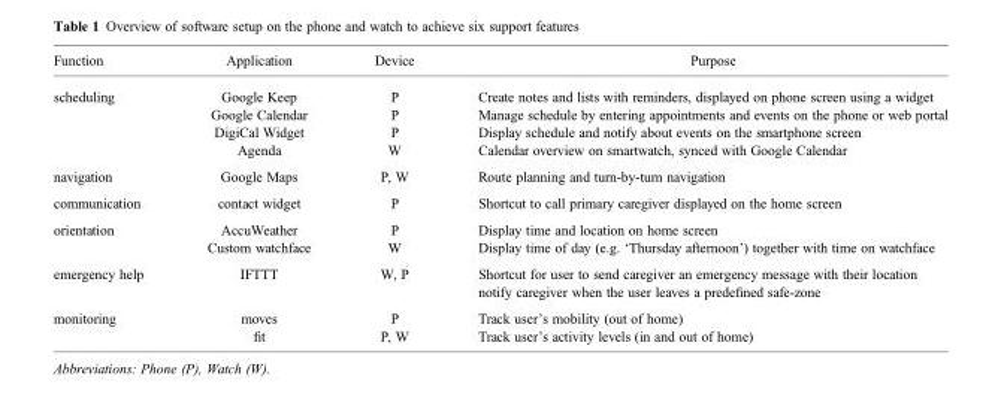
<table><thead><tr><td>Function</td><td>Application</td><td>Device</td><td>Purpose</td></tr></thead><tbody><tr><td rowspan="4">scheduling</td><td>Google Keep</td><td>P</td><td>Create notes and lists with reminders, displayed on phone screen using a widget</td></tr><tr><td>Google Calendar</td><td>P</td><td>Manage schedule by entering appointments and events on the phone or web portal</td></tr><tr><td>DigiCal Widget</td><td>P</td><td>Display schedule and notify about events on the smartphone screen</td></tr><tr><td>Agenda</td><td>W</td><td>Calendar overview on smartwatch, synced with Google Calendar</td></tr><tr><td>navigation</td><td>Google Maps</td><td>P, W</td><td>Route planning and turn-by-turn navigation</td></tr><tr><td>communication</td><td>contact widget</td><td>P</td><td>Shortcut to call primary caregiver displayed on the home screen</td></tr><tr><td rowspan="2">orientation</td><td>AccuWeather</td><td>P</td><td>Display time and location on home screen</td></tr><tr><td>Custom watchface</td><td>W</td><td>Display time of day (e.g. ‘Thursday afternoon’) together with time on watchface</td></tr><tr><td rowspan="2">emergency help</td><td rowspan="2">IFTTT</td><td rowspan="2">W, P</td><td>Shortcut for user to send caregiver an emergency message with their location</td></tr><tr><td>notify caregiver when the user leaves a predefined safe-zone</td></tr><tr><td rowspan="2">monitoring</td><td>moves</td><td>P</td><td>Track user’s mobility (out of home)</td></tr><tr><td>fit</td><td>P, W</td><td>Track user’s activity levels (in and out of home)</td></tr></tbody></table>